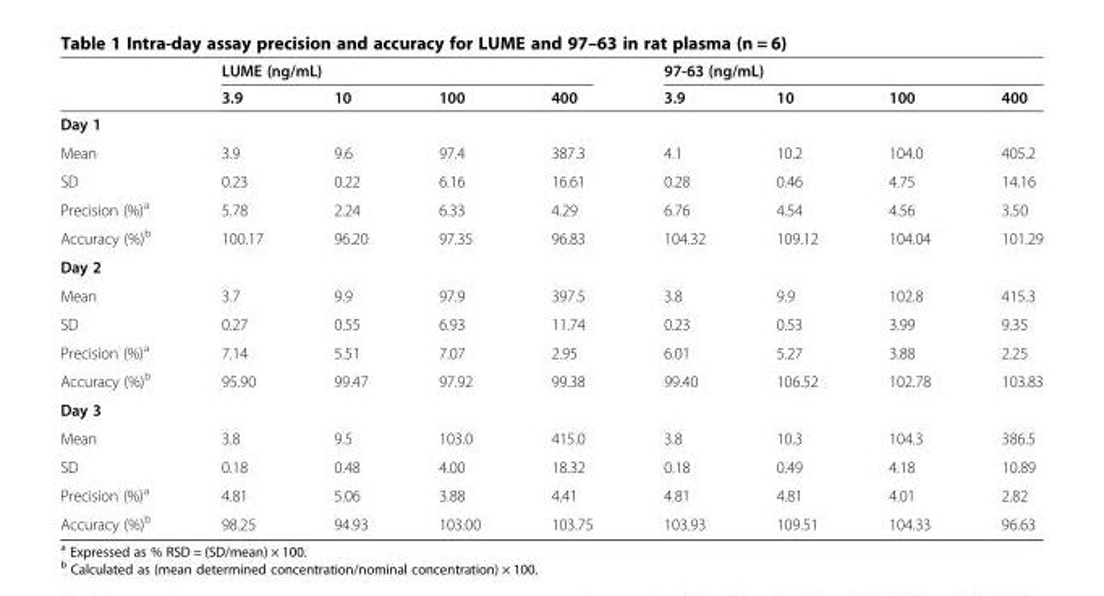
<table><thead><tr><td rowspan="2"></td><td colspan="4">LUME (ng/mL)</td><td colspan="4">97-63 (ng/mL)</td></tr><tr><td>3.9</td><td>10</td><td>100</td><td>400</td><td>3.9</td><td>10</td><td>100</td><td>400</td></tr></thead><tbody><tr><td colspan="9">Day 1</td></tr><tr><td>Mean</td><td>3.9</td><td>9.6</td><td>97.4</td><td>387.3</td><td>4.1</td><td>10.2</td><td>104.0</td><td>405.2</td></tr><tr><td>SD</td><td>0.23</td><td>0.22</td><td>6.16</td><td>16.61</td><td>0.28</td><td>0.46</td><td>4.75</td><td>14.16</td></tr><tr><td>Precision (%)<sup>a</sup></td><td>5.78</td><td>2.24</td><td>6.33</td><td>4.29</td><td>6.76</td><td>4.54</td><td>4.56</td><td>3.50</td></tr><tr><td>Accuracy (%)<sup>b</sup></td><td>100.17</td><td>96.20</td><td>97.35</td><td>96.83</td><td>104.32</td><td>109.12</td><td>104.04</td><td>101.29</td></tr><tr><td colspan="9">Day 2</td></tr><tr><td>Mean</td><td>3.7</td><td>9.9</td><td>97.9</td><td>397.5</td><td>3.8</td><td>9.9</td><td>102.8</td><td>415.3</td></tr><tr><td>SD</td><td>0.27</td><td>0.55</td><td>6.93</td><td>11.74</td><td>0.23</td><td>0.53</td><td>3.99</td><td>9.35</td></tr><tr><td>Precision (%)<sup>a</sup></td><td>7.14</td><td>5.51</td><td>7.07</td><td>2.95</td><td>6.01</td><td>5.27</td><td>3.88</td><td>2.25</td></tr><tr><td>Accuracy (%)<sup>b</sup></td><td>95.90</td><td>99.47</td><td>97.92</td><td>99.38</td><td>99.40</td><td>106.52</td><td>102.78</td><td>103.83</td></tr><tr><td colspan="9">Day 3</td></tr><tr><td>Mean</td><td>3.8</td><td>9.5</td><td>103.0</td><td>415.0</td><td>3.8</td><td>10.3</td><td>104.3</td><td>386.5</td></tr><tr><td>SD</td><td>0.18</td><td>0.48</td><td>4.00</td><td>18.32</td><td>0.18</td><td>0.49</td><td>4.18</td><td>10.89</td></tr><tr><td>Precision (%)<sup>a</sup></td><td>4.81</td><td>5.06</td><td>3.88</td><td>4.41</td><td>4.81</td><td>4.81</td><td>4.01</td><td>2.82</td></tr><tr><td>Accuracy (%)<sup>b</sup></td><td>98.25</td><td>94.93</td><td>103.00</td><td>103.75</td><td>103.93</td><td>109.51</td><td>104.33</td><td>96.63</td></tr></tbody></table>